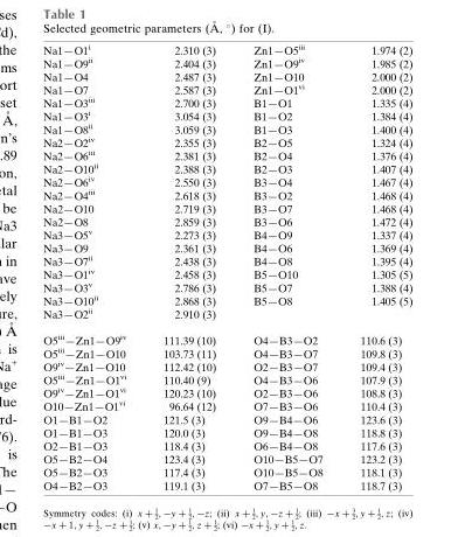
<table><tbody><tr><td>Na1—O1<sup>i</sup></td><td>2.310 (3)</td><td>Zn1—O5<sup>iii</sup></td><td>1.974 (2)</td></tr><tr><td>Na1—O9<sup>ii</sup></td><td>2.404 (3)</td><td>Zn1—O9<sup>iv</sup></td><td>1.985 (2)</td></tr><tr><td>Na1—O4</td><td>2.487 (3)</td><td>Zn1—O10</td><td>2.000 (2)</td></tr><tr><td>Na1—O7</td><td>2.587 (3)</td><td>Zn1—O1<sup>vi</sup></td><td>2.000 (2)</td></tr><tr><td>Na1—O3<sup>iii</sup></td><td>2.700 (3)</td><td>B1—O1</td><td>1.335 (4)</td></tr><tr><td>Na1—O3<sup>i</sup></td><td>3.054 (3)</td><td>B1—O2</td><td>1.384 (4)</td></tr><tr><td>Na1—O8<sup>ii</sup></td><td>3.059 (3)</td><td>B1—O3</td><td>1.400 (4)</td></tr><tr><td>Na2—O2<sup>iv</sup></td><td>2.355 (3)</td><td>B2—O5</td><td>1.324 (4)</td></tr><tr><td>Na2—O6<sup>iii</sup></td><td>2.381 (3)</td><td>B2—O4</td><td>1.376 (4)</td></tr><tr><td>Na2—O10<sup>ii</sup></td><td>2.388 (3)</td><td>B2—O3</td><td>1.407 (4)</td></tr><tr><td>Na2—O6<sup>iv</sup></td><td>2.550 (3)</td><td>B3—O4</td><td>1.467 (4)</td></tr><tr><td>Na2—O4<sup>iii</sup></td><td>2.618 (3)</td><td>B3—O2</td><td>1.468 (4)</td></tr><tr><td>Na2—O10</td><td>2.719 (3)</td><td>B3—O7</td><td>1.468 (4)</td></tr><tr><td>Na2—O8</td><td>2.859 (3)</td><td>B3—O6</td><td>1.472 (4)</td></tr><tr><td>Na3—O5<sup>v</sup></td><td>2.273 (3)</td><td>B4—O9</td><td>1.337 (4)</td></tr><tr><td>Na3—O9</td><td>2.361 (3)</td><td>B4—O6</td><td>1.369 (4)</td></tr><tr><td>Na3—O7<sup>ii</sup></td><td>2.438 (3)</td><td>B4—O8</td><td>1.395 (4)</td></tr><tr><td>Na3—O1<sup>iv</sup></td><td>2.458 (3)</td><td>B5—O10</td><td>1.305 (5)</td></tr><tr><td>Na3—O3<sup>v</sup></td><td>2.786 (3)</td><td>B5—O7</td><td>1.388 (4)</td></tr><tr><td>Na3—O10<sup>ii</sup></td><td>2.868 (3)</td><td>B5—O8</td><td>1.405 (5)</td></tr><tr><td>Na3—O2<sup>ii</sup></td><td>2.910 (3)</td><td></td><td></td></tr><tr><td>O5<sup>iii</sup>—Zn1—O9<sup>iv</sup></td><td>111.39 (10)</td><td>O4—B3—O2</td><td>110.6 (3)</td></tr><tr><td>O5<sup>iii</sup>—Zn1—O10</td><td>103.73 (11)</td><td>O4—B3—O7</td><td>109.8 (3)</td></tr><tr><td>O9<sup>iv</sup>—Zn1—O10</td><td>112.42 (10)</td><td>O2—B3—O7</td><td>109.4 (3)</td></tr><tr><td>O5<sup>iii</sup>—Zn1—O1<sup>vi</sup></td><td>110.40 (9)</td><td>O4—B3—O6</td><td>107.9 (3)</td></tr><tr><td>O9<sup>iv</sup>—Zn1—O1<sup>vi</sup></td><td>120.23 (10)</td><td>O2—B3—O6</td><td>108.8 (3)</td></tr><tr><td>O10—Zn1—O1<sup>vi</sup></td><td>96.64 (12)</td><td>O7—B3—O6</td><td>110.4 (3)</td></tr><tr><td>O1—B1—O2</td><td>121.5 (3)</td><td>O9—B4—O6</td><td>123.6 (3)</td></tr><tr><td>O1—B1—O3</td><td>120.0 (3)</td><td>O9—B4—O8</td><td>118.8 (3)</td></tr><tr><td>O2—B1—O3</td><td>118.4 (3)</td><td>O6—B4—O8</td><td>117.6 (3)</td></tr><tr><td>O5—B2—O4</td><td>123.4 (3)</td><td>O10—B5—O7</td><td>123.2 (3)</td></tr><tr><td>O5—B2—O3</td><td>117.4 (3)</td><td>O10—B5—O8</td><td>118.1 (3)</td></tr><tr><td>O4—B2—O3</td><td>119.1 (3)</td><td>O7—B5—O8</td><td>118.7 (3)</td></tr></tbody></table>